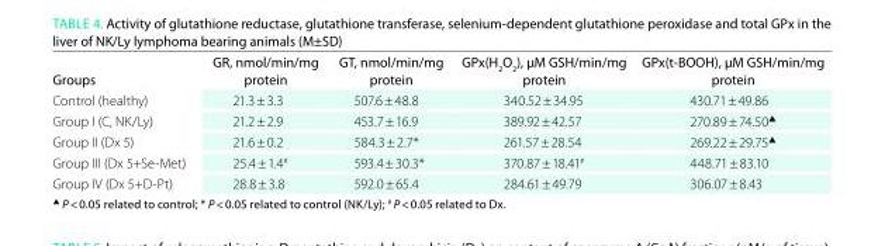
<table><thead><tr><td>Groups</td><td>GR, nmol/min/mg protein</td><td>Gt, nmol/min/mg protein</td><td>GPx(Н<sub>2</sub>О<sub>2</sub>), µM GSh/min/mg protein</td><td>GPx(t-bOOh), µM GSh/min/mg protein</td></tr></thead><tbody><tr><td>Control (healthy)</td><td>21.3 ± 3.3</td><td>507.6 ± 48.8</td><td>340.52 ± 34.95</td><td>430.71 ± 49.86</td></tr><tr><td>Group I (C, NK/Ly)</td><td>21.2 ± 2.9</td><td>453.7 ± 16.9</td><td>389.92 ± 42.57</td><td>270.89 ± 74.50<sup>▲</sup></td></tr><tr><td>Group II (Dx 5)</td><td>21.6 ± 0.2</td><td>584.3 ± 2.7*</td><td>261.57 ± 28.54</td><td>269.22 ± 29.75<sup>▲</sup></td></tr><tr><td>Group III (Dx 5+Se-Met)</td><td>25.4 ± 1.4<sup>#</sup></td><td>593.4 ± 30.3*</td><td>370.87 ± 18.41<sup>#</sup></td><td>448.71 ± 83.10</td></tr><tr><td>Group IV (Dx 5+D-Pt)</td><td>28.8 ± 3.8</td><td>592.0 ± 65.4</td><td>284.61 ± 49.79</td><td>306.07 ± 8.43</td></tr></tbody></table>